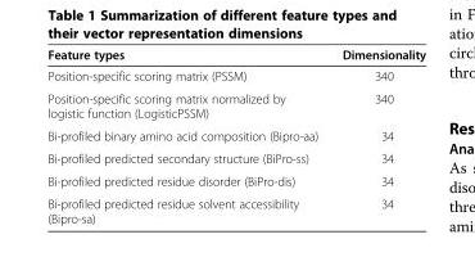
<table><thead><tr><td>Feature types</td><td>Dimensionality</td></tr></thead><tbody><tr><td>Position-specific scoring matrix (PSSM)</td><td>340</td></tr><tr><td>Position-specific scoring matrix normalized by logistic function (LogisticPSSM)</td><td>340</td></tr><tr><td>Bi-profiled binary amino acid composition (Bipro-aa)</td><td>34</td></tr><tr><td>Bi-profiled predicted secondary structure (BiPro-ss)</td><td>34</td></tr><tr><td>Bi-profiled predicted residue disorder (BiPro-dis)</td><td>34</td></tr><tr><td>Bi-profiled predicted residue solvent accessibility (Bipro-sa)</td><td>34</td></tr></tbody></table>